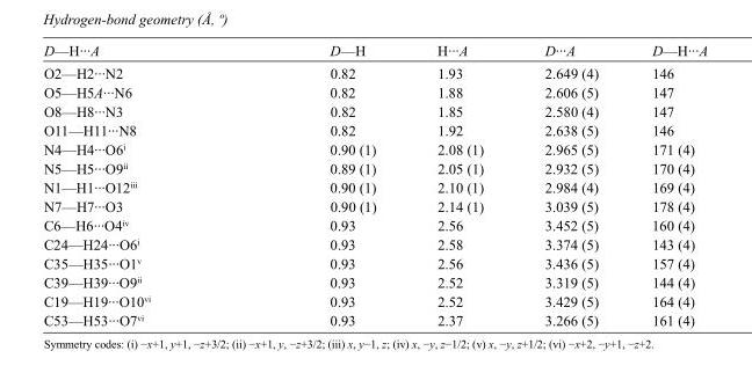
<table><tbody><tr><td>D—H···A</td><td>D—H</td><td>H···A</td><td>D···A</td><td>D—H···A</td></tr><tr><td>O2—H2···N2</td><td>0.82</td><td>1.93</td><td>2.649 (4)</td><td>146</td></tr><tr><td>O5—H5A···N6</td><td>0.82</td><td>1.88</td><td>2.606 (5)</td><td>147</td></tr><tr><td>O8—H8···N3</td><td>0.82</td><td>1.85</td><td>2.580 (4)</td><td>147</td></tr><tr><td>O11—H11···N8</td><td>0.82</td><td>1.92</td><td>2.638 (5)</td><td>146</td></tr><tr><td>N4—H4···O6<sup>i</sup></td><td>0.90 (1)</td><td>2.08 (1)</td><td>2.965 (5)</td><td>171 (4)</td></tr><tr><td>N5—H5···O9<sup>ii</sup></td><td>0.89 (1)</td><td>2.05 (1)</td><td>2.932 (5)</td><td>170 (4)</td></tr><tr><td>N1—H1···O12<sup>iii</sup></td><td>0.90 (1)</td><td>2.10 (1)</td><td>2.984 (4)</td><td>169 (4)</td></tr><tr><td>N7—H7···O3</td><td>0.90 (1)</td><td>2.14 (1)</td><td>3.039 (5)</td><td>178 (4)</td></tr><tr><td>C6—H6···O4<sup>iv</sup></td><td>0.93</td><td>2.56</td><td>3.452 (5)</td><td>160 (4)</td></tr><tr><td>C24—H24···O6<sup>i</sup></td><td>0.93</td><td>2.58</td><td>3.374 (5)</td><td>143 (4)</td></tr><tr><td>C35—H35···O1<sup>v</sup></td><td>0.93</td><td>2.56</td><td>3.436 (5)</td><td>157 (4)</td></tr><tr><td>C39—H39···O9<sup>ii</sup></td><td>0.93</td><td>2.52</td><td>3.319 (5)</td><td>144 (4)</td></tr><tr><td>C19—H19···O10<sup>vi</sup></td><td>0.93</td><td>2.52</td><td>3.429 (5)</td><td>164 (4)</td></tr><tr><td>C53—H53···O7<sup>vi</sup></td><td>0.93</td><td>2.37</td><td>3.266 (5)</td><td>161 (4)</td></tr></tbody></table>